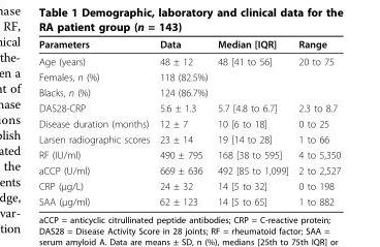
<table><thead><tr><td>Parameters</td><td>Data</td><td>Median [IQR]</td><td>Range</td></tr></thead><tbody><tr><td>Age (years)</td><td>48 ± 12</td><td>48 [41 to 56]</td><td>20 to 75</td></tr><tr><td>Females, n (%)</td><td>118 (82.5%)</td><td></td><td></td></tr><tr><td>Blacks, n (%)</td><td>124 (86.7%)</td><td></td><td></td></tr><tr><td>DAS28-CRP</td><td>5.6 ± 1.3</td><td>5.7 [4.8 to 6.7]</td><td>2.3 to 8.7</td></tr><tr><td>Disease duration (months)</td><td>12 ± 7</td><td>10 [6 to 18]</td><td>0 to 25</td></tr><tr><td>Larsen radiographic scores</td><td>23 ± 14</td><td>19 [14 to 28]</td><td>1 to 66</td></tr><tr><td>RF (IU/ml)</td><td>490 ± 795</td><td>168 [38 to 595]</td><td>4 to 5,350</td></tr><tr><td>aCCP (U/ml)</td><td>669 ± 636</td><td>492 [85 to 1,099]</td><td>2 to 2,527</td></tr><tr><td>CRP (μg/L)</td><td>24 ± 32</td><td>14 [5 to 32]</td><td>0 to 198</td></tr><tr><td>SAA (μg/ml)</td><td>62 ± 123</td><td>14 [5 to 65]</td><td>1 to 882</td></tr></tbody></table>